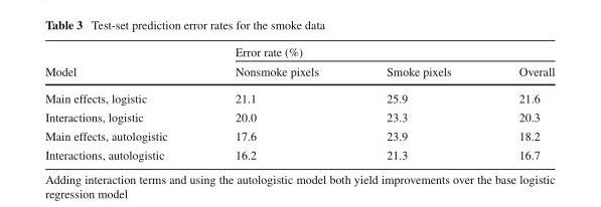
<table><thead><tr><td rowspan="2">Model</td><td colspan="3">Error rate (%)</td></tr><tr><td>Nonsmoke pixels</td><td>Smoke pixels</td><td>Overall</td></tr></thead><tbody><tr><td>Main effects, logistic</td><td>21.1</td><td>25.9</td><td>21.6</td></tr><tr><td>Interactions, logistic</td><td>20.0</td><td>23.3</td><td>20.3</td></tr><tr><td>Main effects, autologistic</td><td>17.6</td><td>23.9</td><td>18.2</td></tr><tr><td>Interactions, autologistic</td><td>16.2</td><td>21.3</td><td>16.7</td></tr></tbody></table>